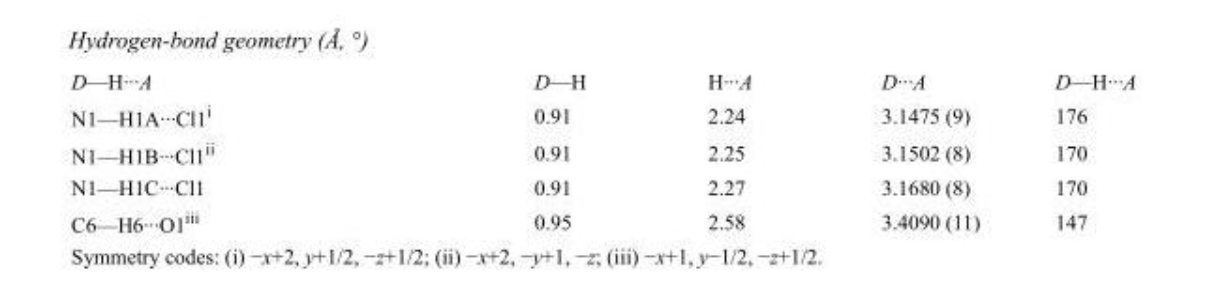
<table><tbody><tr><td>D—H···A</td><td>D—H</td><td>H···A</td><td>D···A</td><td>D—H···A</td></tr><tr><td>N1—H1A···Cl1<sup>i</sup></td><td>0.91</td><td>2.24</td><td>3.1475 (9)</td><td>176</td></tr><tr><td>N1—H1B···Cl1<sup>ii</sup></td><td>0.91</td><td>2.25</td><td>3.1502 (8)</td><td>170</td></tr><tr><td>N1—H1C···Cl1</td><td>0.91</td><td>2.27</td><td>3.1680 (8)</td><td>170</td></tr><tr><td>C6—H6···O1<sup>iii</sup></td><td>0.95</td><td>2.58</td><td>3.4090 (11)</td><td>147</td></tr></tbody></table>